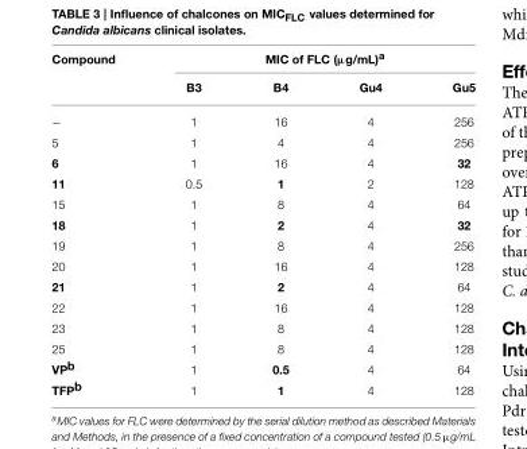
<table><thead><tr><td rowspan="2">Compound</td><td colspan="4">MIC of FLC (µg/mL)<sup>a</sup></td></tr><tr><td>B3</td><td>B4</td><td>Gu4</td><td>Gu5</td></tr></thead><tbody><tr><td>−</td><td>1</td><td>16</td><td>4</td><td>256</td></tr><tr><td>5</td><td>1</td><td>4</td><td>4</td><td>256</td></tr><tr><td>6</td><td>1</td><td>16</td><td>4</td><td>32</td></tr><tr><td>11</td><td>0.5</td><td>1</td><td>2</td><td>128</td></tr><tr><td>15</td><td>1</td><td>8</td><td>4</td><td>64</td></tr><tr><td>18</td><td>1</td><td>2</td><td>4</td><td>32</td></tr><tr><td>19</td><td>1</td><td>8</td><td>4</td><td>256</td></tr><tr><td>20</td><td>1</td><td>16</td><td>4</td><td>128</td></tr><tr><td>21</td><td>1</td><td>2</td><td>4</td><td>64</td></tr><tr><td>22</td><td>1</td><td>16</td><td>4</td><td>128</td></tr><tr><td>23</td><td>1</td><td>8</td><td>4</td><td>128</td></tr><tr><td>25</td><td>1</td><td>8</td><td>4</td><td>128</td></tr><tr><td>VP<sup>b</sup></td><td>1</td><td>0.5</td><td>4</td><td>64</td></tr><tr><td>TFP<sup>b</sup></td><td>1</td><td>1</td><td>4</td><td>128</td></tr></tbody></table>